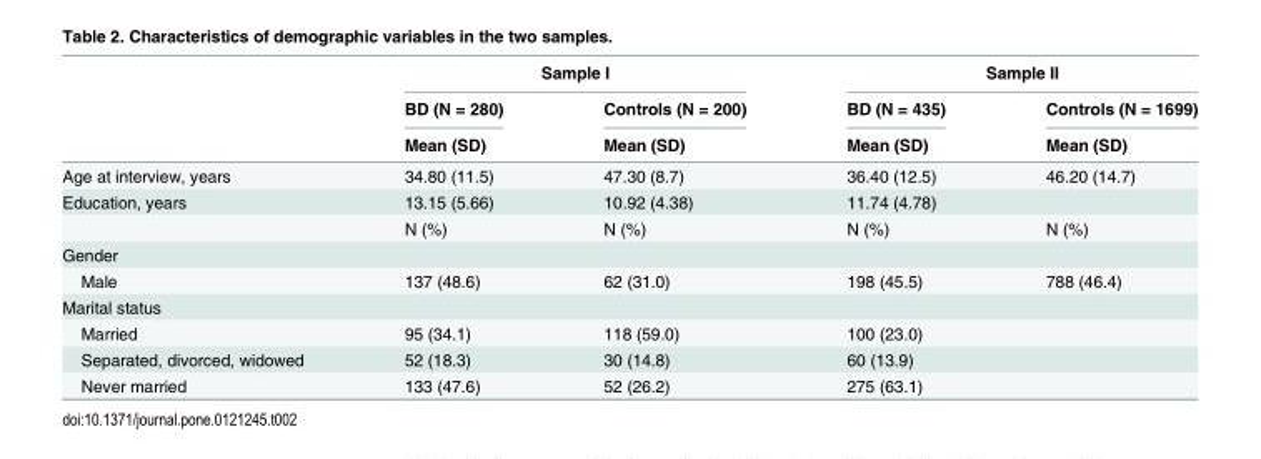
<table><thead><tr><td rowspan="3"></td><td colspan="2">Sample I</td><td colspan="2">Sample II</td></tr><tr><td rowspan="2">BD (N = 280) Mean (SD)</td><td rowspan="2">Controls (N = 200) Mean (SD)</td><td rowspan="2">BD (N = 435) Mean (SD)</td><td rowspan="2">Controls (N = 1699) Mean (SD)</td></tr><tr></tr></thead><tbody><tr><td>Age at interview, years</td><td>34.80 (11.5)</td><td>47.30 (8.7)</td><td>36.40 (12.5)</td><td>46.20 (14.7)</td></tr><tr><td rowspan="2">Education, years</td><td>13.15 (5.66)</td><td>10.92 (4.38)</td><td>11.74 (4.78)</td><td></td></tr><tr><td>N (%)</td><td>N (%)</td><td>N (%)</td><td>N (%)</td></tr><tr><td colspan="5">Gender</td></tr><tr><td>Male</td><td>137 (48.6)</td><td>62 (31.0)</td><td>198 (45.5)</td><td>788 (46.4)</td></tr><tr><td colspan="5">Marital status</td></tr><tr><td>Married</td><td>95 (34.1)</td><td>118 (59.0)</td><td>100 (23.0)</td><td></td></tr><tr><td>Separated, divorced, widowed</td><td>52 (18.3)</td><td>30 (14.8)</td><td>60 (13.9)</td><td></td></tr><tr><td>Never married</td><td>133 (47.6)</td><td>52 (26.2)</td><td>275 (63.1)</td><td></td></tr></tbody></table>